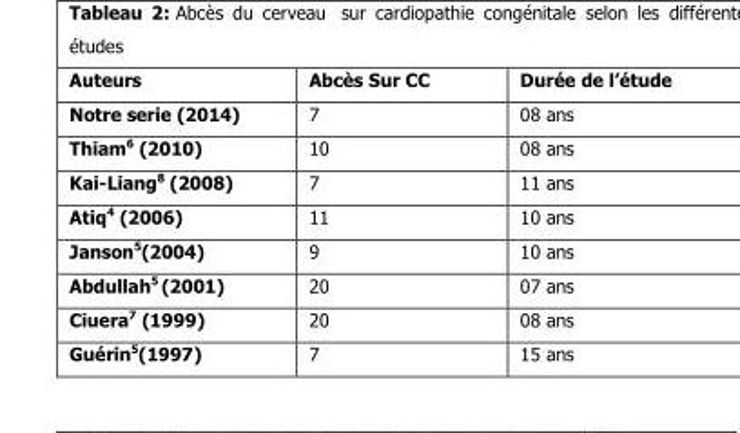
<table><thead><tr><td>Auteurs</td><td>Abcès Sur CC</td><td>Durée de l’étude</td></tr></thead><tbody><tr><td>Notre serie (2014)</td><td>7</td><td>08 ans</td></tr><tr><td>Thiam<sup>6</sup> (2010)</td><td>10</td><td>08 ans</td></tr><tr><td>Kai-Liang<sup>8</sup> (2008)</td><td>7</td><td>11 ans</td></tr><tr><td>Atiq<sup>4</sup> (2006)</td><td>11</td><td>10 ans</td></tr><tr><td>Janson<sup>5</sup>(2004)</td><td>9</td><td>10 ans</td></tr><tr><td>Abdullah<sup>5</sup> (2001)</td><td>20</td><td>07 ans</td></tr><tr><td>Ciuera<sup>7</sup> (1999)</td><td>20</td><td>08 ans</td></tr><tr><td>Guérin<sup>5</sup>(1997)</td><td>7</td><td>15 ans</td></tr></tbody></table>